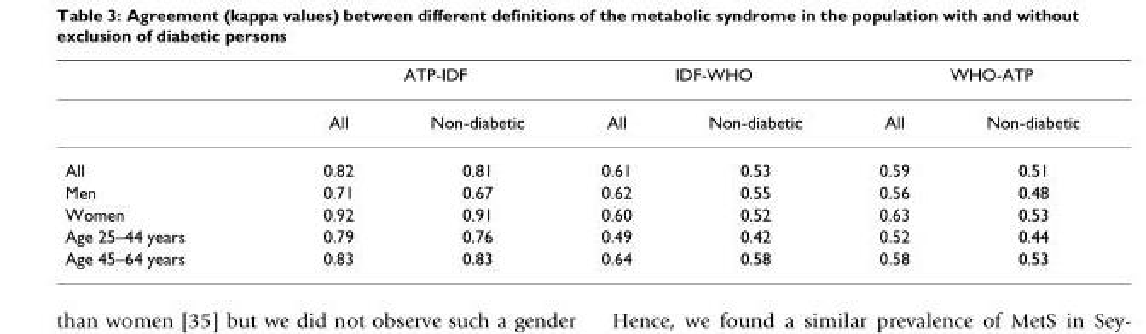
<table><thead><tr><td rowspan="2"></td><td colspan="2">ATP-IDF</td><td colspan="2">IDF-WHO</td><td colspan="2">WHO-ATP</td></tr><tr><td>All</td><td>Non-diabetic</td><td>All</td><td>Non-diabetic</td><td>All</td><td>Non-diabetic</td></tr></thead><tbody><tr><td>All</td><td>0.82</td><td>0.81</td><td>0.61</td><td>0.53</td><td>0.59</td><td>0.51</td></tr><tr><td>Men</td><td>0.71</td><td>0.67</td><td>0.62</td><td>0.55</td><td>0.56</td><td>0.48</td></tr><tr><td>Women</td><td>0.92</td><td>0.91</td><td>0.60</td><td>0.52</td><td>0.63</td><td>0.53</td></tr><tr><td>Age 25–44 years</td><td>0.79</td><td>0.76</td><td>0.49</td><td>0.42</td><td>0.52</td><td>0.44</td></tr><tr><td>Age 45–64 years</td><td>0.83</td><td>0.83</td><td>0.64</td><td>0.58</td><td>0.58</td><td>0.53</td></tr></tbody></table>